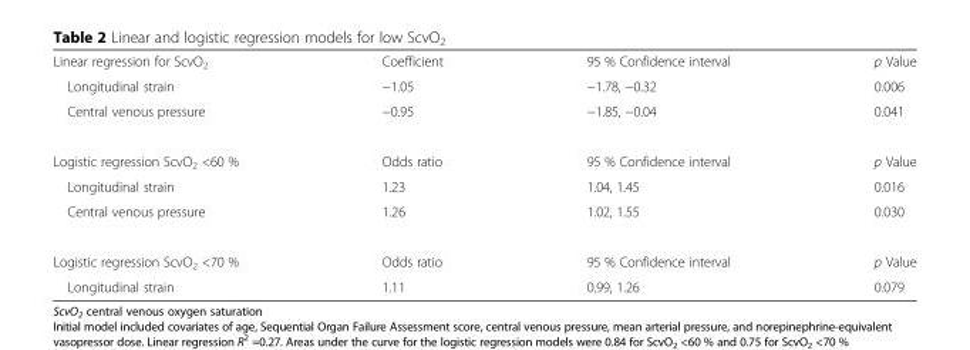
<table><tbody><tr><td>Linear regression for ScvO<sub>2</sub></td><td>Coefficient</td><td>95 % Confidence interval</td><td>p Value</td></tr><tr><td>Longitudinal strain</td><td>−1.05</td><td>−1.78, −0.32</td><td>0.006</td></tr><tr><td>Central venous pressure</td><td>−0.95</td><td>−1.85, −0.04</td><td>0.041</td></tr><tr><td>Logistic regression ScvO<sub>2</sub> &lt;60 %</td><td>Odds ratio</td><td>95 % Confidence interval</td><td>p Value</td></tr><tr><td>Longitudinal strain</td><td>1.23</td><td>1.04, 1.45</td><td>0.016</td></tr><tr><td>Central venous pressure</td><td>1.26</td><td>1.02, 1.55</td><td>0.030</td></tr><tr><td>Logistic regression ScvO<sub>2</sub> &lt;70 %</td><td>Odds ratio</td><td>95 % Confidence interval</td><td>p Value</td></tr><tr><td>Longitudinal strain</td><td>1.11</td><td>0.99, 1.26</td><td>0.079</td></tr></tbody></table>